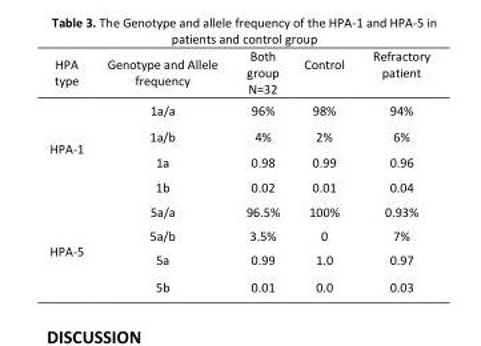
<table><thead><tr><td>HPA type</td><td>Genotype and Allele frequency</td><td>Both group N=32</td><td>Control</td><td>Refractory patient</td></tr></thead><tbody><tr><td rowspan="4">HPA-1</td><td>1a/a</td><td>96%</td><td>98%</td><td>94%</td></tr><tr><td>1a/b</td><td>4%</td><td>2%</td><td>6%</td></tr><tr><td>1a</td><td>0.98</td><td>0.99</td><td>0.96</td></tr><tr><td>1b</td><td>0.02</td><td>0.01</td><td>0.04</td></tr><tr><td rowspan="4">HPA-5</td><td>5a/a</td><td>96.5%</td><td>100%</td><td>0.93%</td></tr><tr><td>5a/b</td><td>3.5%</td><td>0</td><td>7%</td></tr><tr><td>5a</td><td>0.99</td><td>1.0</td><td>0.97</td></tr><tr><td>5b</td><td>0.01</td><td>0.0</td><td>0.03</td></tr></tbody></table>